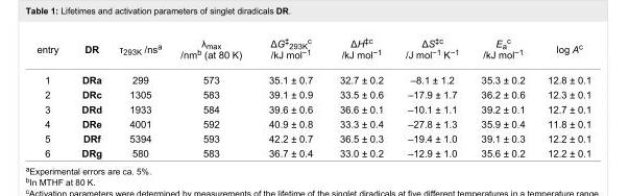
<table><tbody><tr><td>entry</td><td>DR</td><td>τ<sub>293K</sub> /ns<sup>a</sup></td><td>λ<sub>max</sub> /nm<sup>b</sup> (at 80 K)</td><td>ΔG<sup>‡</sup><sub>293K</sub><sup>c</sup> /kJ mol<sup>−1</sup></td><td>ΔH<sup>‡c</sup> /kJ mol<sup>−1</sup></td><td>ΔS<sup>‡c</sup> /J mol<sup>−1</sup> K<sup>−1</sup></td><td>E<sub>a</sub><sup>c</sup> /kJ mol<sup>−1</sup></td><td>log A<sup>c</sup></td></tr><tr><td>1</td><td>DRa</td><td>299</td><td>573</td><td>35.1 ± 0.7</td><td>32.7 ± 0.2</td><td>–8.1 ± 1.2</td><td>35.3 ± 0.2</td><td>12.8 ± 0.1</td></tr><tr><td>2</td><td>DRc</td><td>1305</td><td>583</td><td>39.1 ± 0.9</td><td>33.5 ± 0.6</td><td>–17.9 ± 1.7</td><td>36.2 ± 0.6</td><td>12.3 ± 0.1</td></tr><tr><td>3</td><td>DRd</td><td>1933</td><td>584</td><td>39.6 ± 0.6</td><td>36.6 ± 0.1</td><td>–10.1 ± 1.1</td><td>39.2 ± 0.1</td><td>12.7 ± 0.1</td></tr><tr><td>4</td><td>DRe</td><td>4001</td><td>592</td><td>40.9 ± 0.8</td><td>33.3 ± 0.4</td><td>–27.8 ± 1.3</td><td>35.9 ± 0.4</td><td>11.8 ± 0.1</td></tr><tr><td>5</td><td>DRf</td><td>5394</td><td>593</td><td>42.2 ± 0.7</td><td>36.5 ± 0.3</td><td>–19.4 ± 1.0</td><td>39.1 ± 0.3</td><td>12.2 ± 0.1</td></tr><tr><td>6</td><td>DRg</td><td>580</td><td>583</td><td>36.7 ± 0.4</td><td>33.0 ± 0.2</td><td>–12.9 ± 1.0</td><td>35.6 ± 0.2</td><td>12.2 ± 0.1</td></tr></tbody></table>